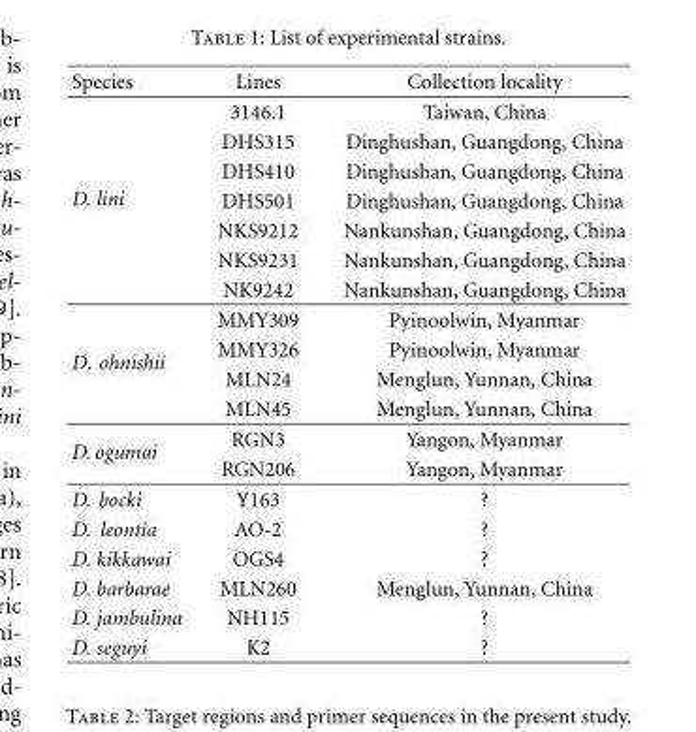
<table><thead><tr><td>Species</td><td>Lines</td><td>Collection locality</td></tr></thead><tbody><tr><td rowspan="7">D. lini</td><td>3146.1</td><td>Taiwan, China</td></tr><tr><td>DHS315</td><td>Dinghushan, Guangdong, China</td></tr><tr><td>DHS410</td><td>Dinghushan, Guangdong, China</td></tr><tr><td>DHS501</td><td>Dinghushan, Guangdong, China</td></tr><tr><td>NKS9212</td><td>Nankunshan, Guangdong, China</td></tr><tr><td>NKS9231</td><td>Nankunshan, Guangdong, China</td></tr><tr><td>NK9242</td><td>Nankunshan, Guangdong, China</td></tr><tr><td rowspan="4">D. ohnishii</td><td>MMY309</td><td>Pyinoolwin, Myanmar</td></tr><tr><td>MMY326</td><td>Pyinoolwin, Myanmar</td></tr><tr><td>MLN24</td><td>Menglun, Yunnan, China</td></tr><tr><td>MLN45</td><td>Menglun, Yunnan, China</td></tr><tr><td rowspan="2">D. ogumai</td><td>RGN3</td><td>Yangon, Myanmar</td></tr><tr><td>RGN206</td><td>Yangon, Myanmar</td></tr><tr><td>D. bocki</td><td>Y163</td><td>?</td></tr><tr><td>D. leontia</td><td>AO-2</td><td>?</td></tr><tr><td>D. kikkawai</td><td>OGS4</td><td>?</td></tr><tr><td>D. barbarae</td><td>MLN260</td><td>Menglun, Yunnan, China</td></tr><tr><td>D. jambulina</td><td>NH115</td><td>?</td></tr><tr><td>D. seguyi</td><td>K2</td><td>?</td></tr></tbody></table>